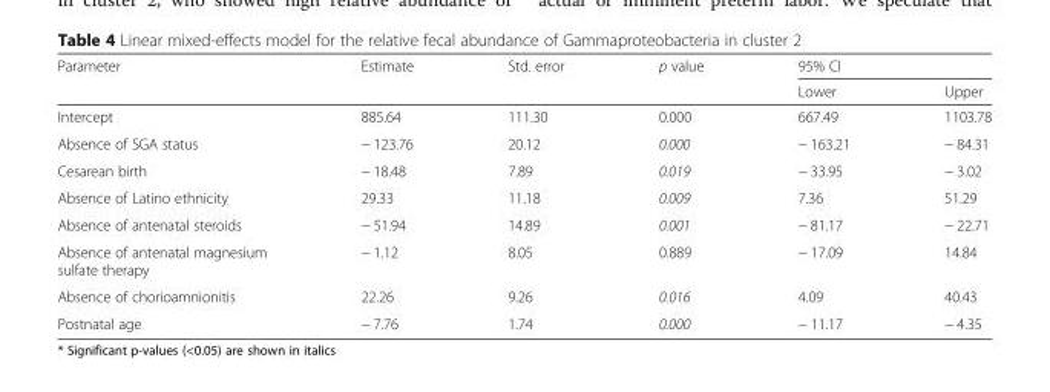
<table><thead><tr><td rowspan="2">Parameter</td><td rowspan="2">Estimate</td><td rowspan="2">Std. error</td><td rowspan="2">p value</td><td colspan="2">95% CI</td></tr><tr><td>Lower</td><td>Upper</td></tr></thead><tbody><tr><td>Intercept</td><td>885.64</td><td>111.30</td><td>0.000</td><td>667.49</td><td>1103.78</td></tr><tr><td>Absence of SGA status</td><td>− 123.76</td><td>20.12</td><td>0.000</td><td>− 163.21</td><td>− 84.31</td></tr><tr><td>Cesarean birth</td><td>− 18.48</td><td>7.89</td><td>0.019</td><td>− 33.95</td><td>− 3.02</td></tr><tr><td>Absence of Latino ethnicity</td><td>29.33</td><td>11.18</td><td>0.009</td><td>7.36</td><td>51.29</td></tr><tr><td>Absence of antenatal steroids</td><td>− 51.94</td><td>14.89</td><td>0.001</td><td>− 81.17</td><td>− 22.71</td></tr><tr><td>Absence of antenatal magnesium sulfate therapy</td><td>− 1.12</td><td>8.05</td><td>0.889</td><td>− 17.09</td><td>14.84</td></tr><tr><td>Absence of chorioamnionitis</td><td>22.26</td><td>9.26</td><td>0.016</td><td>4.09</td><td>40.43</td></tr><tr><td>Postnatal age</td><td>− 7.76</td><td>1.74</td><td>0.000</td><td>− 11.17</td><td>− 4.35</td></tr></tbody></table>